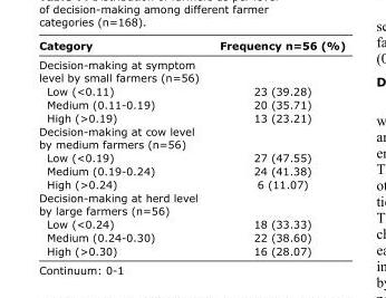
<table><thead><tr><td>Category</td><td>Frequency n=56 (%)</td></tr></thead><tbody><tr><td colspan="2">Decision-making at symptom level by small farmers (n=56)</td></tr><tr><td>Low (&lt;0.11)</td><td>23 (39.28)</td></tr><tr><td>Medium (0.11-0.19)</td><td>20 (35.71)</td></tr><tr><td>High (&gt;0.19)</td><td>13 (23.21)</td></tr><tr><td colspan="2">Decision-making at cow level by medium farmers (n=56)</td></tr><tr><td>Low (&lt;0.19)</td><td>27 (47.55)</td></tr><tr><td>Medium (0.19-0.24)</td><td>24 (41.38)</td></tr><tr><td>High (&gt;0.24)</td><td>6 (11.07)</td></tr><tr><td colspan="2">Decision-making at herd level by large farmers (n=56)</td></tr><tr><td>Low (&lt;0.24)</td><td>18 (33.33)</td></tr><tr><td>Medium (0.24-0.30)</td><td>22 (38.60)</td></tr><tr><td>High (&gt;0.30)</td><td>16 (28.07)</td></tr></tbody></table>